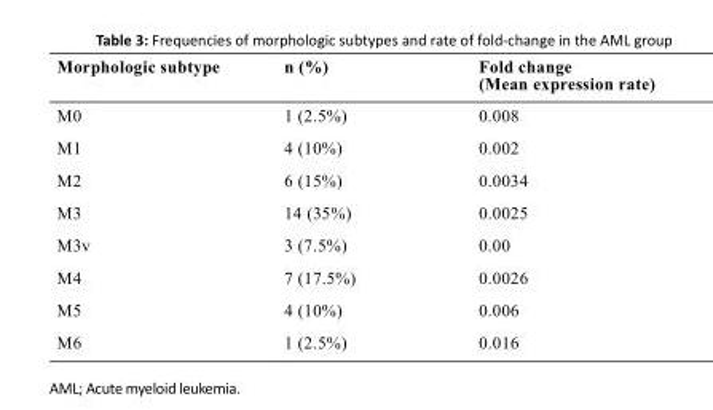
<table><tbody><tr><td>Morphologic subtype</td><td>n (%)</td><td>Fold change (Mean expression rate)</td></tr><tr><td>M0</td><td>1 (2.5%)</td><td>0.008</td></tr><tr><td>M1</td><td>4 (10%)</td><td>0.002</td></tr><tr><td>M2</td><td>6 (15%)</td><td>0.0034</td></tr><tr><td>M3</td><td>14 (35%)</td><td>0.0025</td></tr><tr><td>M3v</td><td>3 (7.5%)</td><td>0.00</td></tr><tr><td>M4</td><td>7 (17.5%)</td><td>0.0026</td></tr><tr><td>M5</td><td>4 (10%)</td><td>0.006</td></tr><tr><td>M6</td><td>1 (2.5%)</td><td>0.016</td></tr></tbody></table>